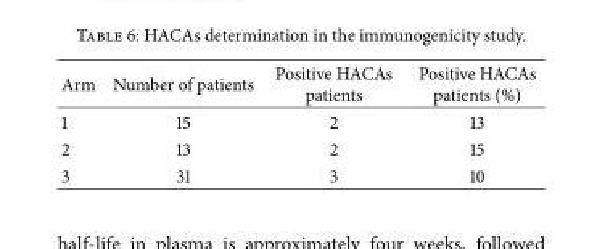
<table><thead><tr><td>Arm</td><td>Number of patients</td><td>Positive HACAs patients</td><td>Positive HACAs patients (%)</td></tr></thead><tbody><tr><td>1</td><td>15</td><td>2</td><td>13</td></tr><tr><td>2</td><td>13</td><td>2</td><td>15</td></tr><tr><td>3</td><td>31</td><td>3</td><td>10</td></tr></tbody></table>